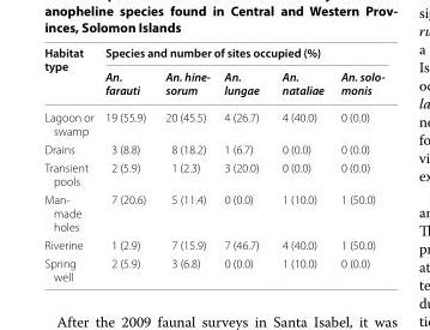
<table><thead><tr><td rowspan="2">Habitat type</td><td colspan="5">Species and number of sites occupied (%)</td></tr><tr><td>An. farauti</td><td>An. hine- sorum</td><td>An. lungae</td><td>An. nataliae</td><td>An. solo- monis</td></tr></thead><tbody><tr><td>Lagoon or swamp</td><td>19 (55.9)</td><td>20 (45.5)</td><td>4 (26.7)</td><td>4 (40.0)</td><td>0 (0.0)</td></tr><tr><td>Drains</td><td>3 (8.8)</td><td>8 (18.2)</td><td>1 (6.7)</td><td>0 (0.0)</td><td>0 (0.0)</td></tr><tr><td>Transient pools</td><td>2 (5.9)</td><td>1 (2.3)</td><td>3 (20.0)</td><td>0 (0.0)</td><td>0 (0.0)</td></tr><tr><td>Man- made holes</td><td>7 (20.6)</td><td>5 (11.4)</td><td>0 (0.0)</td><td>1 (10.0)</td><td>1 (50.0)</td></tr><tr><td>Riverine</td><td>1 (2.9)</td><td>7 (15.9)</td><td>7 (46.7)</td><td>4 (40.0)</td><td>1 (50.0)</td></tr><tr><td>Spring well</td><td>2 (5.9)</td><td>3 (6.8)</td><td>0 (0.0)</td><td>1 (10.0)</td><td>0 (0.0)</td></tr></tbody></table>